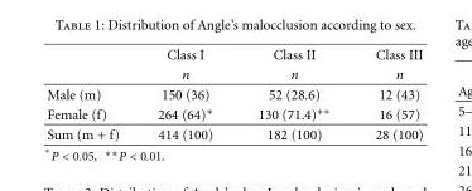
<table><thead><tr><td rowspan="2"></td><td rowspan="2">Class I n</td><td rowspan="2">Class II n</td><td rowspan="2">Class III n</td></tr><tr></tr></thead><tbody><tr><td>Male (m)</td><td>150 (36)</td><td>52 (28.6)</td><td>12 (43)</td></tr><tr><td>Female (f)</td><td>264 (64)∗</td><td>130 (71.4)∗∗</td><td>16 (57)</td></tr><tr><td>Sum (m + f)</td><td>414 (100)</td><td>182 (100)</td><td>28 (100)</td></tr></tbody></table>